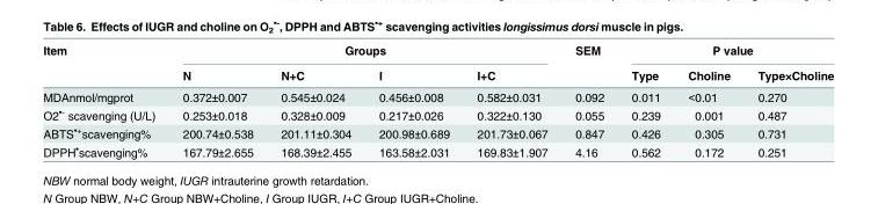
<table><thead><tr><td rowspan="2">Item</td><td colspan="4">Groups</td><td rowspan="2">SEM</td><td colspan="3">P value</td></tr><tr><td>N</td><td>N+C</td><td>I</td><td>I+C</td><td>Type</td><td>Choline</td><td>Type×Choline</td></tr></thead><tbody><tr><td>MDAnmol/mgprot</td><td>0.372±0.007</td><td>0.545±0.024</td><td>0.456±0.008</td><td>0.582±0.031</td><td>0.092</td><td>0.011</td><td>&lt;0.01</td><td>0.270</td></tr><tr><td>O2<sup>•-</sup> scavenging (U/L)</td><td>0.253±0.018</td><td>0.328±0.009</td><td>0.217±0.026</td><td>0.322±0.130</td><td>0.055</td><td>0.239</td><td>0.001</td><td>0.487</td></tr><tr><td>ABTS<sup>•+</sup>scavenging%</td><td>200.74±0.538</td><td>201.11±0.304</td><td>200.98±0.689</td><td>201.73±0.067</td><td>0.847</td><td>0.426</td><td>0.305</td><td>0.731</td></tr><tr><td>DPPH<sup>•</sup>scavenging%</td><td>167.79±2.655</td><td>168.39±2.455</td><td>163.58±2.031</td><td>169.83±1.907</td><td>4.16</td><td>0.562</td><td>0.172</td><td>0.251</td></tr></tbody></table>